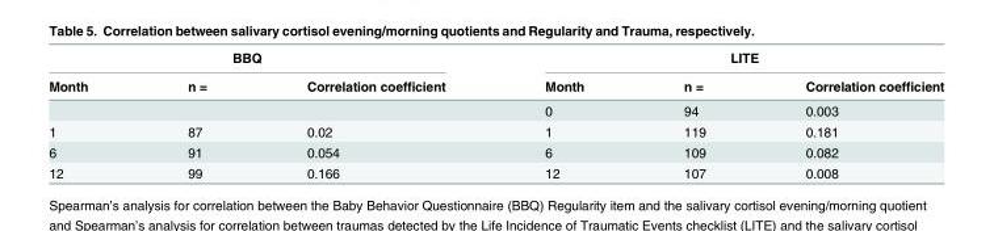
<table><thead><tr><td colspan="3">BBQ</td><td colspan="3">LITE</td></tr><tr><td>Month</td><td>n =</td><td>Correlation coefficient</td><td>Month</td><td>n =</td><td>Correlation coefficient</td></tr></thead><tbody><tr><td></td><td></td><td></td><td>0</td><td>94</td><td>0.003</td></tr><tr><td>1</td><td>87</td><td>0.02</td><td>1</td><td>119</td><td>0.181</td></tr><tr><td>6</td><td>91</td><td>0.054</td><td>6</td><td>109</td><td>0.082</td></tr><tr><td>12</td><td>99</td><td>0.166</td><td>12</td><td>107</td><td>0.008</td></tr></tbody></table>